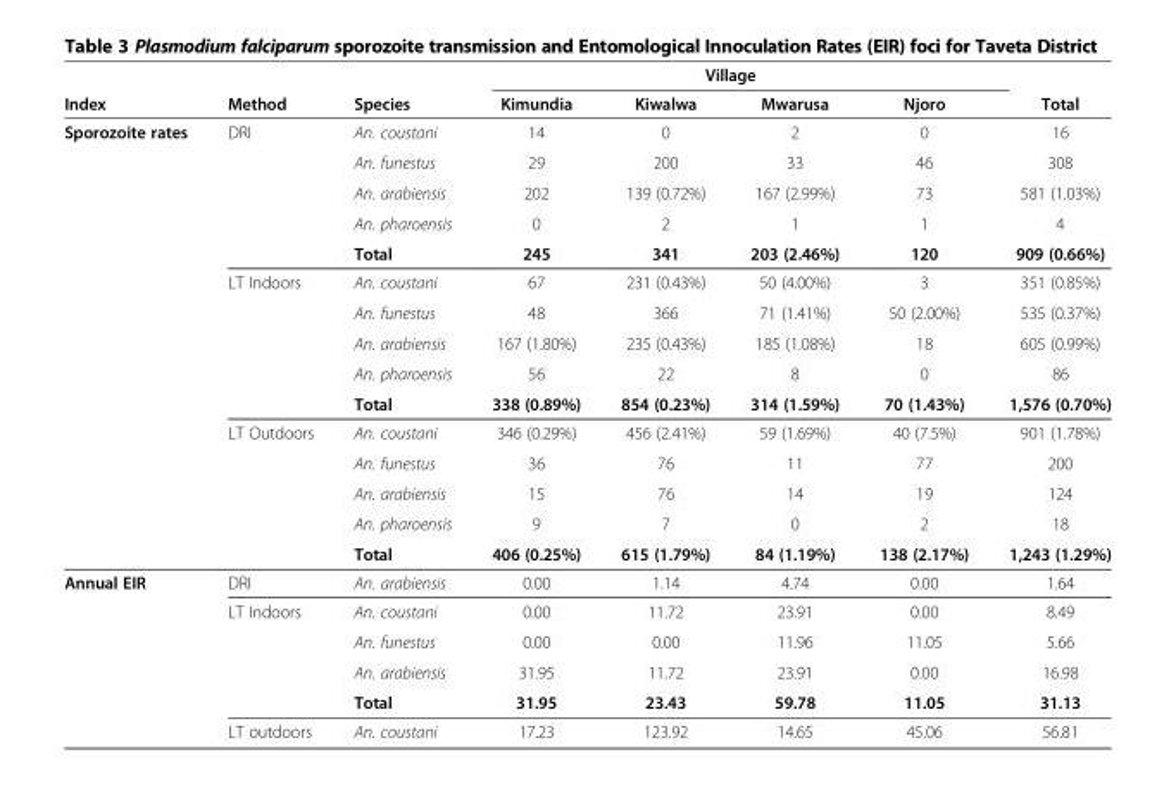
<table><thead><tr><td rowspan="2">Index</td><td rowspan="2">Method</td><td rowspan="2">Species</td><td colspan="4">Village</td><td rowspan="2">Total</td></tr><tr><td>Kimundia</td><td>Kiwalwa</td><td>Mwarusa</td><td>Njoro</td></tr></thead><tbody><tr><td rowspan="15">Sporozoite rates</td><td rowspan="4">DRI</td><td>An. coustani</td><td>14</td><td>0</td><td>2</td><td>0</td><td>16</td></tr><tr><td>An. funestus</td><td>29</td><td>200</td><td>33</td><td>46</td><td>308</td></tr><tr><td>An. arabiensis</td><td>202</td><td>139 (0.72%)</td><td>167 (2.99%)</td><td>73</td><td>581 (1.03%)</td></tr><tr><td>An. pharoensis</td><td>0</td><td>2</td><td>1</td><td>1</td><td>4</td></tr><tr><td></td><td>Total</td><td>245</td><td>341</td><td>203 (2.46%)</td><td>120</td><td>909 (0.66%)</td></tr><tr><td rowspan="4">LT Indoors</td><td>An. coustani</td><td>67</td><td>231 (0.43%)</td><td>50 (4.00%)</td><td>3</td><td>351 (0.85%)</td></tr><tr><td>An. funestus</td><td>48</td><td>366</td><td>71 (1.41%)</td><td>50 (2.00%)</td><td>535 (0.37%)</td></tr><tr><td>An. arabiensis</td><td>167 (1.80%)</td><td>235 (0.43%)</td><td>185 (1.08%)</td><td>18</td><td>605 (0.99%)</td></tr><tr><td>An. pharoensis</td><td>56</td><td>22</td><td>8</td><td>0</td><td>86</td></tr><tr><td></td><td>Total</td><td>338 (0.89%)</td><td>854 (0.23%)</td><td>314 (1.59%)</td><td>70 (1.43%)</td><td>1,576 (0.70%)</td></tr><tr><td rowspan="4">LT Outdoors</td><td>An. coustani</td><td>346 (0.29%)</td><td>456 (2.41%)</td><td>59 (1.69%)</td><td>40 (7.5%)</td><td>901 (1.78%)</td></tr><tr><td>An. funestus</td><td>36</td><td>76</td><td>11</td><td>77</td><td>200</td></tr><tr><td>An. arabiensis</td><td>15</td><td>76</td><td>14</td><td>19</td><td>124</td></tr><tr><td>An. pharoensis</td><td>9</td><td>7</td><td>0</td><td>2</td><td>18</td></tr><tr><td></td><td>Total</td><td>406 (0.25%)</td><td>615 (1.79%)</td><td>84 (1.19%)</td><td>138 (2.17%)</td><td>1,243 (1.29%)</td></tr><tr><td rowspan="6">Annual EIR</td><td>DRI</td><td>An. arabiensis</td><td>0.00</td><td>1.14</td><td>4.74</td><td>0.00</td><td>1.64</td></tr><tr><td rowspan="3">LT Indoors</td><td>An. coustani</td><td>0.00</td><td>11.72</td><td>23.91</td><td>0.00</td><td>8.49</td></tr><tr><td>An. funestus</td><td>0.00</td><td>0.00</td><td>11.96</td><td>11.05</td><td>5.66</td></tr><tr><td>An. arabiensis</td><td>31.95</td><td>11.72</td><td>23.91</td><td>0.00</td><td>16.98</td></tr><tr><td></td><td>Total</td><td>31.95</td><td>23.43</td><td>59.78</td><td>11.05</td><td>31.13</td></tr><tr><td>LT outdoors</td><td>An. coustani</td><td>17.23</td><td>123.92</td><td>14.65</td><td>45.06</td><td>56.81</td></tr></tbody></table>